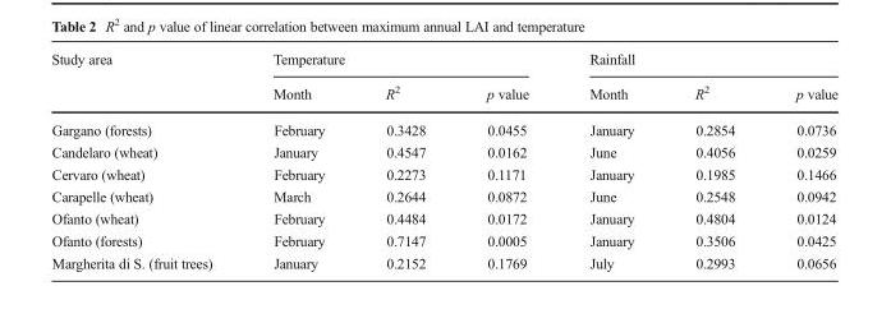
<table><thead><tr><td rowspan="2">Study area</td><td colspan="3">Temperature</td><td colspan="3">Rainfall</td></tr><tr><td>Month</td><td>R<sup>2</sup></td><td>p value</td><td>Month</td><td>R<sup>2</sup></td><td>p value</td></tr></thead><tbody><tr><td>Gargano (forests)</td><td>February</td><td>0.3428</td><td>0.0455</td><td>January</td><td>0.2854</td><td>0.0736</td></tr><tr><td>Candelaro (wheat)</td><td>January</td><td>0.4547</td><td>0.0162</td><td>June</td><td>0.4056</td><td>0.0259</td></tr><tr><td>Cervaro (wheat)</td><td>February</td><td>0.2273</td><td>0.1171</td><td>January</td><td>0.1985</td><td>0.1466</td></tr><tr><td>Carapelle (wheat)</td><td>March</td><td>0.2644</td><td>0.0872</td><td>June</td><td>0.2548</td><td>0.0942</td></tr><tr><td>Ofanto (wheat)</td><td>February</td><td>0.4484</td><td>0.0172</td><td>January</td><td>0.4804</td><td>0.0124</td></tr><tr><td>Ofanto (forests)</td><td>February</td><td>0.7147</td><td>0.0005</td><td>January</td><td>0.3506</td><td>0.0425</td></tr><tr><td>Margherita di S. (fruit trees)</td><td>January</td><td>0.2152</td><td>0.1769</td><td>July</td><td>0.2993</td><td>0.0656</td></tr></tbody></table>